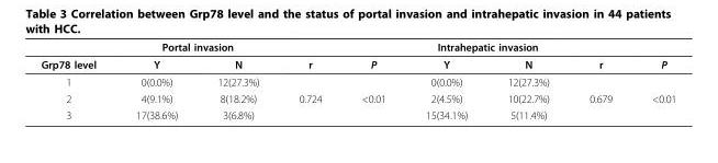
<table><thead><tr><td rowspan="2">Grp78 level</td><td colspan="2">Portal invasion</td><td rowspan="2">r</td><td rowspan="2">P</td><td colspan="2">Intrahepatic invasion</td><td rowspan="2">r</td><td rowspan="2">P</td></tr><tr><td>Y</td><td>N</td><td>Y</td><td>N</td></tr></thead><tbody><tr><td>1</td><td>0(0.0%)</td><td>12(27.3%)</td><td></td><td></td><td>0(0.0%)</td><td>12(27.3%)</td><td></td><td></td></tr><tr><td>2</td><td>4(9.1%)</td><td>8(18.2%)</td><td>0.724</td><td>&lt;0.01</td><td>2(4.5%)</td><td>10(22.7%)</td><td>0.679</td><td>&lt;0.01</td></tr><tr><td>3</td><td>17(38.6%)</td><td>3(6.8%)</td><td></td><td></td><td>15(34.1%)</td><td>5(11.4%)</td><td></td><td></td></tr></tbody></table>